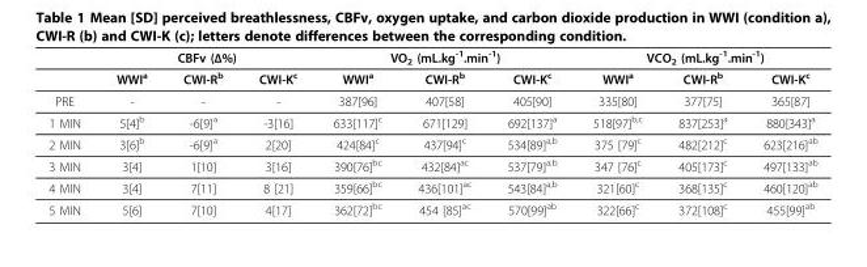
<table><thead><tr><td rowspan="2"></td><td colspan="3">CBFv (Δ%)</td><td colspan="3">VO<sub>2</sub> (mL.kg<sup>-1</sup>.min<sup>-1</sup>)</td><td colspan="3">VCO<sub>2</sub> (mL.kg<sup>-1</sup>.min<sup>-1</sup>)</td></tr><tr><td>WWI<sup>a</sup></td><td>CWI-R<sup>b</sup></td><td>CWI-K<sup>c</sup></td><td>WWI<sup>a</sup></td><td>CWI-R<sup>b</sup></td><td>CWI-K<sup>c</sup></td><td>WWI<sup>a</sup></td><td>CWI-R<sup>b</sup></td><td>CWI-K<sup>c</sup></td></tr></thead><tbody><tr><td>PRE</td><td>-</td><td>-</td><td>-</td><td>387[96]</td><td>407[58]</td><td>405[90]</td><td>335[80]</td><td>377[75]</td><td>365[87]</td></tr><tr><td>1 MIN</td><td>5[4]<sup>b</sup></td><td>-6[9]<sup>a</sup></td><td>-3[16]</td><td>633[117]<sup>c</sup></td><td>671[129]</td><td>692[137]<sup>a</sup></td><td>518[97]<sup>b,c</sup></td><td>837[253]<sup>a</sup></td><td>880[343]<sup>a</sup></td></tr><tr><td>2 MIN</td><td>3[6]<sup>b</sup></td><td>-6[9]<sup>a</sup></td><td>2[20]</td><td>424[84]<sup>c</sup></td><td>437[94]<sup>c</sup></td><td>534[89]<sup>a,b</sup></td><td>375 [79]<sup>c</sup></td><td>482[212]<sup>c</sup></td><td>623[216]<sup>ab</sup></td></tr><tr><td>3 MIN</td><td>3[4]</td><td>1[10]</td><td>3[16]</td><td>390[76]<sup>bc</sup></td><td>432[84]<sup>ac</sup></td><td>537[79]<sup>a,b</sup></td><td>347 [76]<sup>c</sup></td><td>405[173]<sup>c</sup></td><td>497[133]<sup>ab</sup></td></tr><tr><td>4 MIN</td><td>3[4]</td><td>7[11]</td><td>8 [21]</td><td>359[66]<sup>bc</sup></td><td>436[101]<sup>ac</sup></td><td>543[84]<sup>a,b</sup></td><td>321[60]<sup>c</sup></td><td>368[135]<sup>c</sup></td><td>460[120]<sup>ab</sup></td></tr><tr><td>5 MIN</td><td>5[6]</td><td>7[10]</td><td>4[17]</td><td>362[72]<sup>bc</sup></td><td>454 [85]<sup>ac</sup></td><td>570[99]<sup>ab</sup></td><td>322[66]<sup>c</sup></td><td>372[108]<sup>c</sup></td><td>455[99]<sup>ab</sup></td></tr></tbody></table>